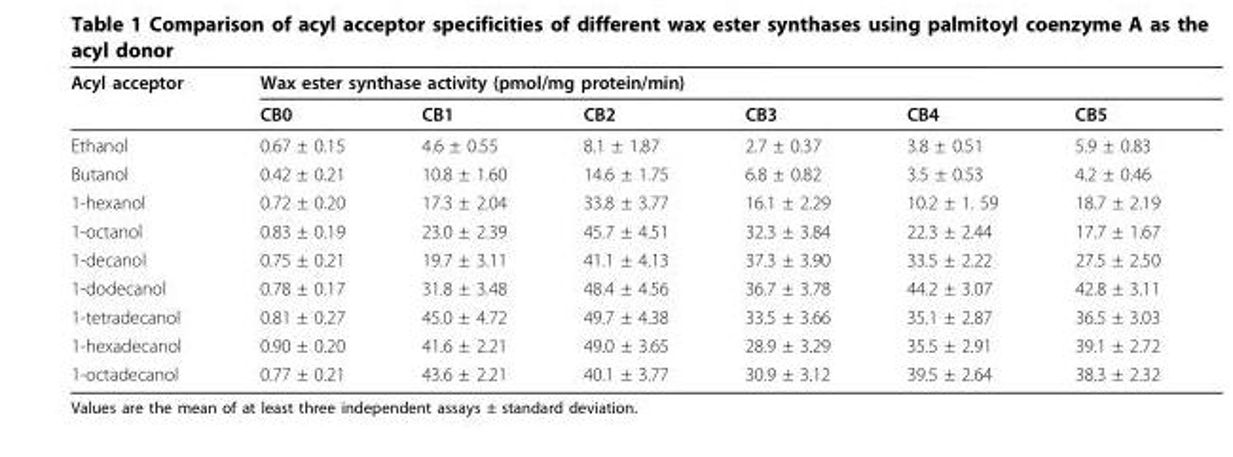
<table><thead><tr><td rowspan="2">Acyl acceptor</td><td colspan="6">Wax ester synthase activity (pmol/mg protein/min)</td></tr><tr><td>CB0</td><td>CB1</td><td>CB2</td><td>CB3</td><td>CB4</td><td>CB5</td></tr></thead><tbody><tr><td>Ethanol</td><td>0.67 ± 0.15</td><td>4.6 ± 0.55</td><td>8.1 ± 1.87</td><td>2.7 ± 0.37</td><td>3.8 ± 0.51</td><td>5.9 ± 0.83</td></tr><tr><td>Butanol</td><td>0.42 ± 0.21</td><td>10.8 ± 1.60</td><td>14.6 ± 1.75</td><td>6.8 ± 0.82</td><td>3.5 ± 0.53</td><td>4.2 ± 0.46</td></tr><tr><td>1-hexanol</td><td>0.72 ± 0.20</td><td>17.3 ± 2.04</td><td>33.8 ± 3.77</td><td>16.1 ± 2.29</td><td>10.2 ± 1. 59</td><td>18.7 ± 2.19</td></tr><tr><td>1-octanol</td><td>0.83 ± 0.19</td><td>23.0 ± 2.39</td><td>45.7 ± 4.51</td><td>32.3 ± 3.84</td><td>22.3 ± 2.44</td><td>17.7 ± 1.67</td></tr><tr><td>1-decanol</td><td>0.75 ± 0.21</td><td>19.7 ± 3.11</td><td>41.1 ± 4.13</td><td>37.3 ± 3.90</td><td>33.5 ± 2.22</td><td>27.5 ± 2.50</td></tr><tr><td>1-dodecanol</td><td>0.78 ± 0.17</td><td>31.8 ± 3.48</td><td>48.4 ± 4.56</td><td>36.7 ± 3.78</td><td>44.2 ± 3.07</td><td>42.8 ± 3.11</td></tr><tr><td>1-tetradecanol</td><td>0.81 ± 0.27</td><td>45.0 ± 4.72</td><td>49.7 ± 4.38</td><td>33.5 ± 3.66</td><td>35.1 ± 2.87</td><td>36.5 ± 3.03</td></tr><tr><td>1-hexadecanol</td><td>0.90 ± 0.20</td><td>41.6 ± 2.21</td><td>49.0 ± 3.65</td><td>28.9 ± 3.29</td><td>35.5 ± 2.91</td><td>39.1 ± 2.72</td></tr><tr><td>1-octadecanol</td><td>0.77 ± 0.21</td><td>43.6 ± 2.21</td><td>40.1 ± 3.77</td><td>30.9 ± 3.12</td><td>39.5 ± 2.64</td><td>38.3 ± 2.32</td></tr></tbody></table>